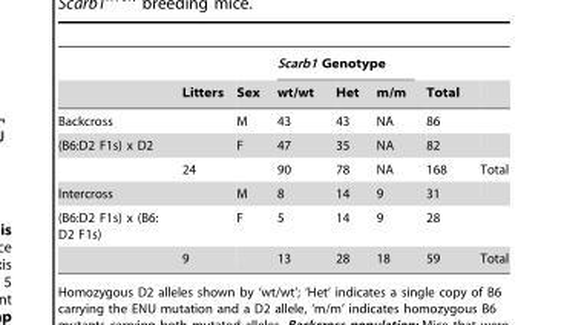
<table><thead><tr><td rowspan="2"></td><td rowspan="2">Litters</td><td rowspan="2">Sex</td><td colspan="3">Scarb1 Genotype</td><td rowspan="2">Total</td><td rowspan="2"></td></tr><tr><td>wt/wt</td><td>Het</td><td>m/m</td></tr></thead><tbody><tr><td>Backcross</td><td></td><td>M</td><td>43</td><td>43</td><td>NA</td><td>86</td><td></td></tr><tr><td rowspan="2">(B6:D2 F1s) x D2</td><td></td><td>F</td><td>47</td><td>35</td><td>NA</td><td>82</td><td></td></tr><tr><td>24</td><td></td><td>90</td><td>78</td><td>NA</td><td>168</td><td>Total</td></tr><tr><td>Intercross</td><td></td><td>M</td><td>8</td><td>14</td><td>9</td><td>31</td><td></td></tr><tr><td rowspan="2">(B6:D2 F1s) x (B6: D2 F1s)</td><td></td><td>F</td><td>5</td><td>14</td><td>9</td><td>28</td><td></td></tr><tr><td>9</td><td></td><td>13</td><td>28</td><td>18</td><td>59</td><td>Total</td></tr></tbody></table>